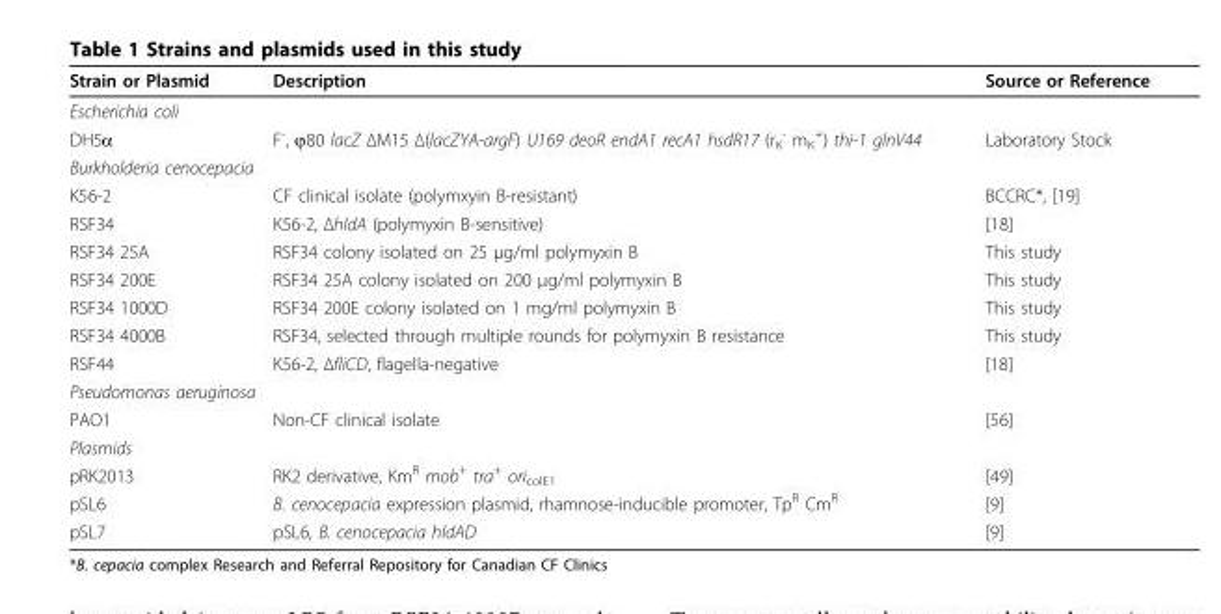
<table><thead><tr><td>Strain or Plasmid</td><td>Description</td><td>Source or Reference</td></tr></thead><tbody><tr><td colspan="3">Escherichia coli</td></tr><tr><td>DH5α</td><td>F<sup>-</sup>, ϕ80 lacZ ΔM15 Δ(lacZYA-argF) U169 deoR endA1 recA1 hsdR17 (r<sub>K</sub> <sup>-</sup> m<sub>K</sub> <sup>+</sup>) thi-1 glnV44</td><td>Laboratory Stock</td></tr><tr><td colspan="3">Burkholderia cenocepacia</td></tr><tr><td>K56-2</td><td>CF clinical isolate (polymxyin B-resistant)</td><td>BCCRC*, [19]</td></tr><tr><td>RSF34</td><td>K56-2, ΔhldA (polymyxin B-sensitive)</td><td>[18]</td></tr><tr><td>RSF34 25A</td><td>RSF34 colony isolated on 25 μg/ml polymyxin B</td><td>This study</td></tr><tr><td>RSF34 200E</td><td>RSF34 25A colony isolated on 200 μg/ml polymyxin B</td><td>This study</td></tr><tr><td>RSF34 1000D</td><td>RSF34 200E colony isolated on 1 mg/ml polymyxin B</td><td>This study</td></tr><tr><td>RSF34 4000B</td><td>RSF34, selected through multiple rounds for polymyxin B resistance</td><td>This study</td></tr><tr><td>RSF44</td><td>K56-2, ΔfliCD, flagella-negative</td><td>[18]</td></tr><tr><td colspan="3">Pseudomonas aeruginosa</td></tr><tr><td>PAO1</td><td>Non-CF clinical isolate</td><td>[56]</td></tr><tr><td colspan="3">Plasmids</td></tr><tr><td>pRK2013</td><td>RK2 derivative, Km<sup>R</sup> mob<sup>+</sup> tra<sup>+</sup> ori<sub>colE1</sub></td><td>[49]</td></tr><tr><td>pSL6</td><td>B. cenocepacia expression plasmid, rhamnose-inducible promoter, Tp<sup>R</sup> Cm<sup>R</sup></td><td>[9]</td></tr><tr><td>pSL7</td><td>pSL6, B. cenocepacia hldAD</td><td>[9]</td></tr></tbody></table>